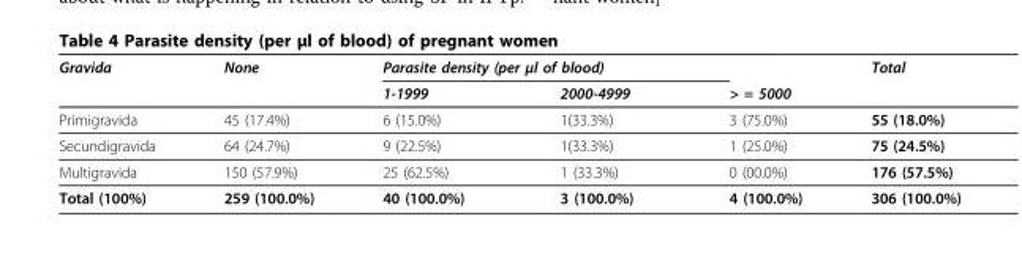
<table><thead><tr><td rowspan="2">Gravida</td><td rowspan="2">None</td><td colspan="2">Parasite density (per μl of blood)</td><td rowspan="2">&gt; = 5000</td><td rowspan="2">Total</td></tr><tr><td>1-1999</td><td>2000-4999</td></tr></thead><tbody><tr><td>Primigravida</td><td>45 (17.4%)</td><td>6 (15.0%)</td><td>1(33.3%)</td><td>3 (75.0%)</td><td>55 (18.0%)</td></tr><tr><td>Secundigravida</td><td>64 (24.7%)</td><td>9 (22.5%)</td><td>1(33.3%)</td><td>1 (25.0%)</td><td>75 (24.5%)</td></tr><tr><td>Multigravida</td><td>150 (57.9%)</td><td>25 (62.5%)</td><td>1 (33.3%)</td><td>0 (00.0%)</td><td>176 (57.5%)</td></tr><tr><td>Total (100%)</td><td>259 (100.0%)</td><td>40 (100.0%)</td><td>3 (100.0%)</td><td>4 (100.0%)</td><td>306 (100.0%)</td></tr></tbody></table>